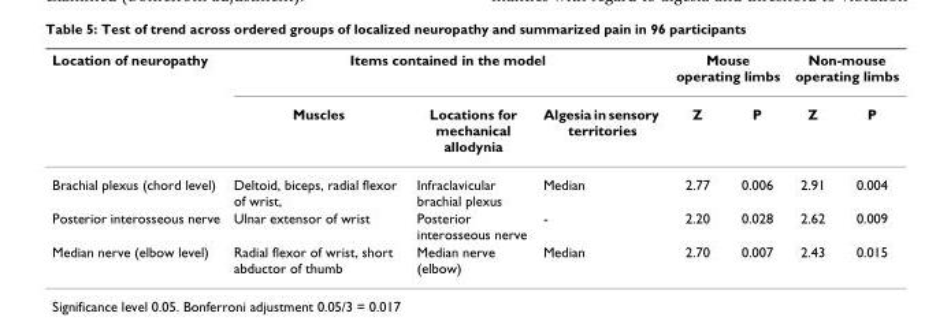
<table><thead><tr><td rowspan="2">Location of neuropathy</td><td colspan="3">Items contained in the model</td><td colspan="2">Mouse operating limbs</td><td colspan="2">Non-mouse operating limbs</td></tr><tr><td>Muscles</td><td>Locations for mechanical allodynia</td><td>Algesia in sensory territories</td><td>Z</td><td>P</td><td>Z</td><td>P</td></tr></thead><tbody><tr><td>Brachial plexus (chord level)</td><td>Deltoid, biceps, radial flexor of wrist,</td><td>Infraclavicular brachial plexus</td><td>Median</td><td>2.77</td><td>0.006</td><td>2.91</td><td>0.004</td></tr><tr><td>Posterior interosseous nerve</td><td>Ulnar extensor of wrist</td><td>Posterior interosseous nerve</td><td>-</td><td>2.20</td><td>0.028</td><td>2.62</td><td>0.009</td></tr><tr><td>Median nerve (elbow level)</td><td>Radial flexor of wrist, short abductor of thumb</td><td>Median nerve (elbow)</td><td>Median</td><td>2.70</td><td>0.007</td><td>2.43</td><td>0.015</td></tr></tbody></table>